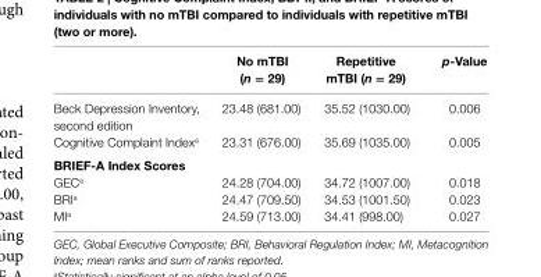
<table><thead><tr><td></td><td>no mTBi (n = 29)</td><td>repetitive mTBi (n = 29)</td><td>p-Value</td></tr></thead><tbody><tr><td>Beck Depression Inventory, second edition</td><td>23.48 (681.00)</td><td>35.52 (1030.00)</td><td>0.006</td></tr><tr><td>Cognitive Complaint Index<sup>a</sup></td><td>23.31 (676.00)</td><td>35.69 (1035.00)</td><td>0.005</td></tr><tr><td colspan="4">BrieF-a index scores</td></tr><tr><td>GEC<sup>a</sup></td><td>24.28 (704.00)</td><td>34.72 (1007.00)</td><td>0.018</td></tr><tr><td>BRI<sup>a</sup></td><td>24.47 (709.50)</td><td>34.53 (1001.50)</td><td>0.023</td></tr><tr><td>MI<sup>a</sup></td><td>24.59 (713.00)</td><td>34.41 (998.00)</td><td>0.027</td></tr></tbody></table>